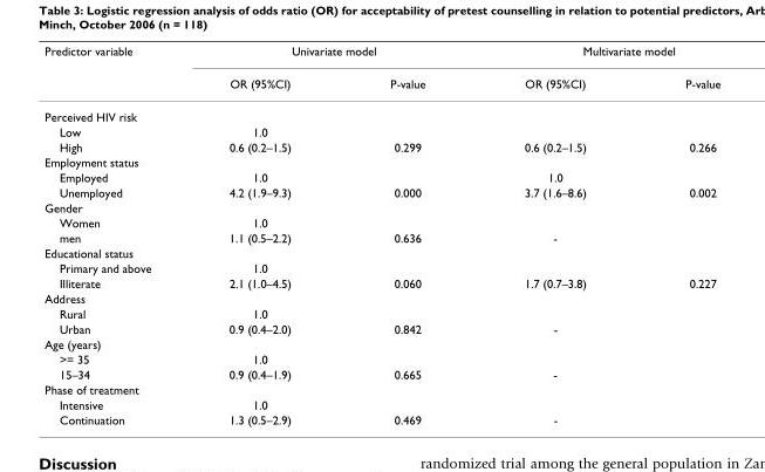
<table><thead><tr><td rowspan="2">Predictor variable</td><td colspan="2">Univariate model</td><td colspan="2">Multivariate model</td></tr><tr><td>OR (95%CI)</td><td>P-value</td><td>OR (95%CI)</td><td>P-value</td></tr></thead><tbody><tr><td colspan="5">Perceived HIV risk</td></tr><tr><td>Low</td><td>1.0</td><td></td><td></td><td></td></tr><tr><td>High</td><td>0.6 (0.2–1.5)</td><td>0.299</td><td>0.6 (0.2–1.5)</td><td>0.266</td></tr><tr><td colspan="5">Employment status</td></tr><tr><td>Employed</td><td>1.0</td><td></td><td>1.0</td><td></td></tr><tr><td>Unemployed</td><td>4.2 (1.9–9.3)</td><td>0.000</td><td>3.7 (1.6–8.6)</td><td>0.002</td></tr><tr><td colspan="5">Gender</td></tr><tr><td>Women</td><td>1.0</td><td></td><td></td><td></td></tr><tr><td>men</td><td>1.1 (0.5–2.2)</td><td>0.636</td><td>-</td><td></td></tr><tr><td colspan="5">Educational status</td></tr><tr><td>Primary and above</td><td>1.0</td><td></td><td></td><td></td></tr><tr><td>Illiterate</td><td>2.1 (1.0–4.5)</td><td>0.060</td><td>1.7 (0.7–3.8)</td><td>0.227</td></tr><tr><td colspan="5">Address</td></tr><tr><td>Rural</td><td>1.0</td><td></td><td></td><td></td></tr><tr><td>Urban</td><td>0.9 (0.4–2.0)</td><td>0.842</td><td>-</td><td></td></tr><tr><td colspan="5">Age (years)</td></tr><tr><td>&gt;= 35</td><td>1.0</td><td></td><td></td><td></td></tr><tr><td>15–34</td><td>0.9 (0.4–1.9)</td><td>0.665</td><td>-</td><td></td></tr><tr><td colspan="5">Phase of treatment</td></tr><tr><td>Intensive</td><td>1.0</td><td></td><td></td><td></td></tr><tr><td>Continuation</td><td>1.3 (0.5–2.9)</td><td>0.469</td><td>-</td><td></td></tr></tbody></table>